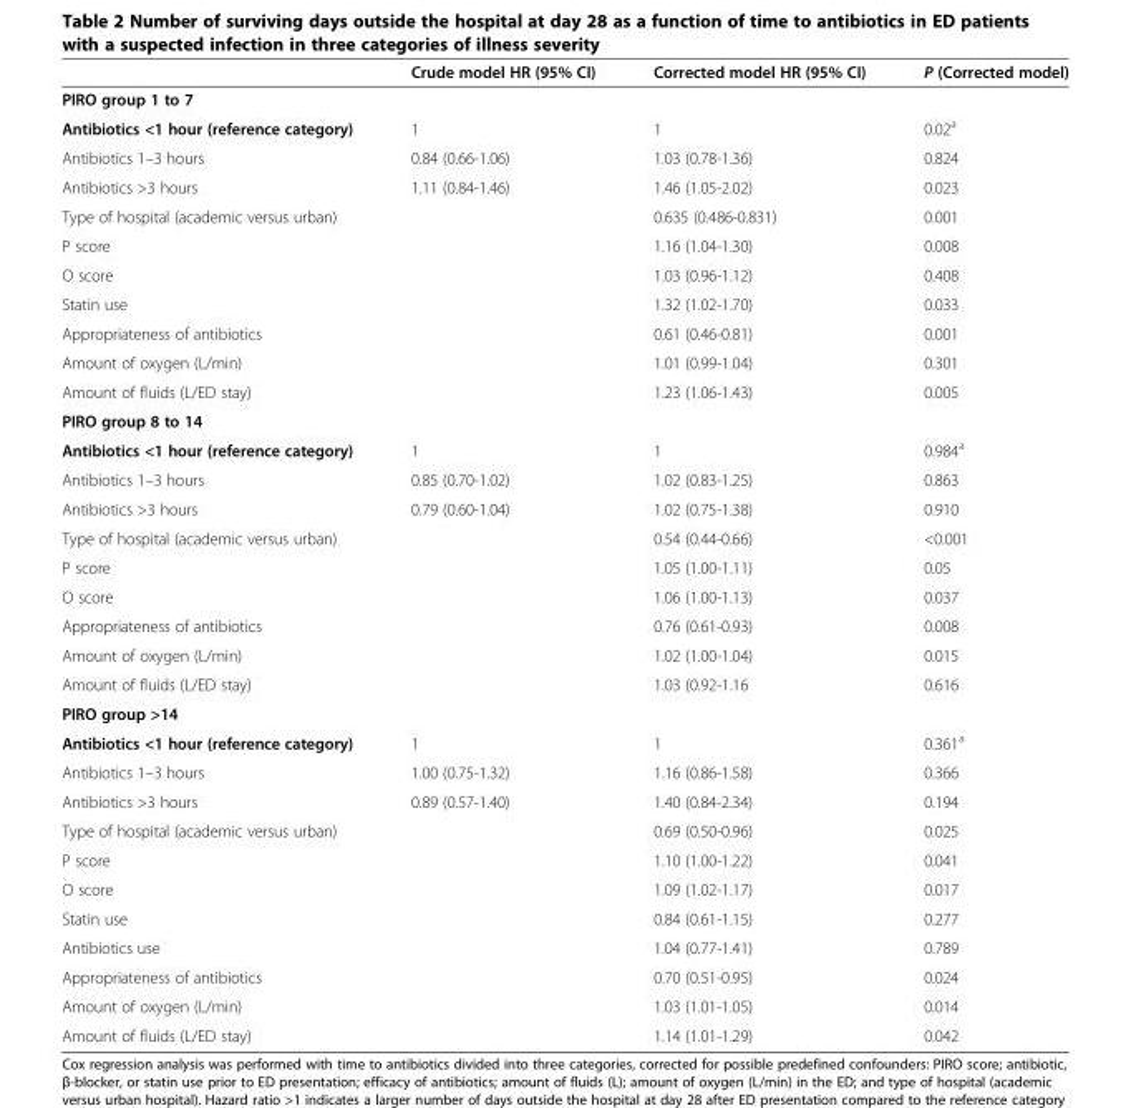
<table><thead><tr><td></td><td>Crude model HR (95% CI)</td><td>Corrected model HR (95% CI)</td><td>P (Corrected model)</td></tr></thead><tbody><tr><td colspan="4">PIRO group 1 to 7</td></tr><tr><td>Antibiotics &lt;1 hour (reference category)</td><td>1</td><td>1</td><td>0.02<sup>a</sup></td></tr><tr><td>Antibiotics 1–3 hours</td><td>0.84 (0.66-1.06)</td><td>1.03 (0.78-1.36)</td><td>0.824</td></tr><tr><td>Antibiotics &gt;3 hours</td><td>1.11 (0.84-1.46)</td><td>1.46 (1.05-2.02)</td><td>0.023</td></tr><tr><td>Type of hospital (academic versus urban)</td><td></td><td>0.635 (0.486-0.831)</td><td>0.001</td></tr><tr><td>P score</td><td></td><td>1.16 (1.04-1.30)</td><td>0.008</td></tr><tr><td>O score</td><td></td><td>1.03 (0.96-1.12)</td><td>0.408</td></tr><tr><td>Statin use</td><td></td><td>1.32 (1.02-1.70)</td><td>0.033</td></tr><tr><td>Appropriateness of antibiotics</td><td></td><td>0.61 (0.46-0.81)</td><td>0.001</td></tr><tr><td>Amount of oxygen (L/min)</td><td></td><td>1.01 (0.99-1.04)</td><td>0.301</td></tr><tr><td>Amount of fluids (L/ED stay)</td><td></td><td>1.23 (1.06-1.43)</td><td>0.005</td></tr><tr><td colspan="4">PIRO group 8 to 14</td></tr><tr><td>Antibiotics &lt;1 hour (reference category)</td><td>1</td><td>1</td><td>0.984<sup>a</sup></td></tr><tr><td>Antibiotics 1–3 hours</td><td>0.85 (0.70-1.02)</td><td>1.02 (0.83-1.25)</td><td>0.863</td></tr><tr><td>Antibiotics &gt;3 hours</td><td>0.79 (0.60-1.04)</td><td>1.02 (0.75-1.38)</td><td>0.910</td></tr><tr><td>Type of hospital (academic versus urban)</td><td></td><td>0.54 (0.44-0.66)</td><td>&lt;0.001</td></tr><tr><td>P score</td><td></td><td>1.05 (1.00-1.11)</td><td>0.05</td></tr><tr><td>O score</td><td></td><td>1.06 (1.00-1.13)</td><td>0.037</td></tr><tr><td>Appropriateness of antibiotics</td><td></td><td>0.76 (0.61-0.93)</td><td>0.008</td></tr><tr><td>Amount of oxygen (L/min)</td><td></td><td>1.02 (1.00-1.04)</td><td>0.015</td></tr><tr><td>Amount of fluids (L/ED stay)</td><td></td><td>1.03 (0.92-1.16</td><td>0.616</td></tr><tr><td colspan="4">PIRO group &gt;14</td></tr><tr><td>Antibiotics &lt;1 hour (reference category)</td><td>1</td><td>1</td><td>0.361<sup>a</sup></td></tr><tr><td>Antibiotics 1–3 hours</td><td>1.00 (0.75-1.32)</td><td>1.16 (0.86-1.58)</td><td>0.366</td></tr><tr><td>Antibiotics &gt;3 hours</td><td>0.89 (0.57-1.40)</td><td>1.40 (0.84-2.34)</td><td>0.194</td></tr><tr><td>Type of hospital (academic versus urban)</td><td></td><td>0.69 (0.50-0.96)</td><td>0.025</td></tr><tr><td>P score</td><td></td><td>1.10 (1.00-1.22)</td><td>0.041</td></tr><tr><td>O score</td><td></td><td>1.09 (1.02-1.17)</td><td>0.017</td></tr><tr><td>Statin use</td><td></td><td>0.84 (0.61-1.15)</td><td>0.277</td></tr><tr><td>Antibiotics use</td><td></td><td>1.04 (0.77-1.41)</td><td>0.789</td></tr><tr><td>Appropriateness of antibiotics</td><td></td><td>0.70 (0.51-0.95)</td><td>0.024</td></tr><tr><td>Amount of oxygen (L/min)</td><td></td><td>1.03 (1.01-1.05)</td><td>0.014</td></tr><tr><td>Amount of fluids (L/ED stay)</td><td></td><td>1.14 (1.01-1.29)</td><td>0.042</td></tr></tbody></table>